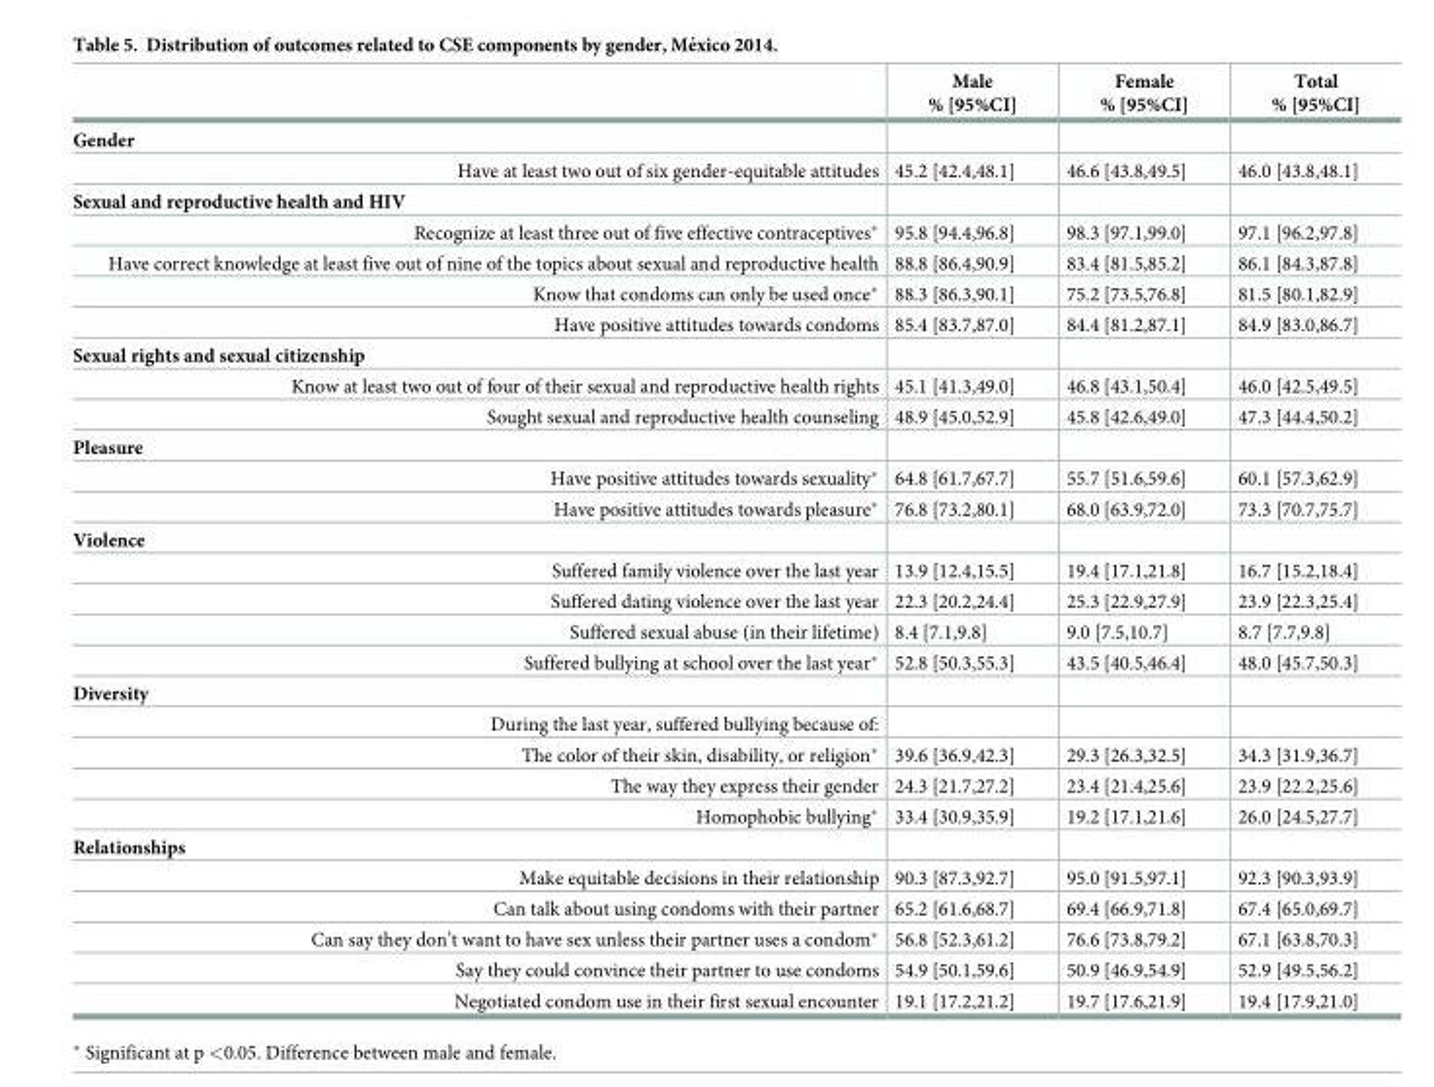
<table><thead><tr><td></td><td>Male % [95%CI]</td><td>Female % [95%CI]</td><td>Total % [95%CI]</td></tr></thead><tbody><tr><td colspan="4">Gender</td></tr><tr><td>Have at least two out of six gender-equitable attitudes</td><td>45.2 [42.4,48.1]</td><td>46.6 [43.8,49.5]</td><td>46.0 [43.8,48.1]</td></tr><tr><td colspan="4">Sexual and reproductive health and HIV</td></tr><tr><td>Recognize at least three out of five effective contraceptives*</td><td>95.8 [94.4,96.8]</td><td>98.3 [97.1,99.0]</td><td>97.1 [96.2,97.8]</td></tr><tr><td>Have correct knowledge at least five out of nine of the topics about sexual and reproductive health</td><td>88.8 [86.4,90.9]</td><td>83.4 [81.5,85.2]</td><td>86.1 [84.3,87.8]</td></tr><tr><td>Know that condoms can only be used once*</td><td>88.3 [86.3,90.1]</td><td>75.2 [73.5,76.8]</td><td>81.5 [80.1,82.9]</td></tr><tr><td>Have positive attitudes towards condoms</td><td>85.4 [83.7,87.0]</td><td>84.4 [81.2,87.1]</td><td>84.9 [83.0,86.7]</td></tr><tr><td colspan="4">Sexual rights and sexual citizenship</td></tr><tr><td>Know at least two out of four of their sexual and reproductive health rights</td><td>45.1 [41.3,49.0]</td><td>46.8 [43.1,50.4]</td><td>46.0 [42.5,49.5]</td></tr><tr><td>Sought sexual and reproductive health counseling</td><td>48.9 [45.0,52.9]</td><td>45.8 [42.6,49.0]</td><td>47.3 [44.4,50.2]</td></tr><tr><td colspan="4">Pleasure</td></tr><tr><td>Have positive attitudes towards sexuality*</td><td>64.8 [61.7,67.7]</td><td>55.7 [51.6,59.6]</td><td>60.1 [57.3,62.9]</td></tr><tr><td>Have positive attitudes towards pleasure*</td><td>76.8 [73.2,80.1]</td><td>68.0 [63.9,72.0]</td><td>73.3 [70.7,75.7]</td></tr><tr><td colspan="4">Violence</td></tr><tr><td>Suffered family violence over the last year</td><td>13.9 [12.4,15.5]</td><td>19.4 [17.1,21.8]</td><td>16.7 [15.2,18.4]</td></tr><tr><td>Suffered dating violence over the last year</td><td>22.3 [20.2,24.4]</td><td>25.3 [22.9,27.9]</td><td>23.9 [22.3,25.4]</td></tr><tr><td>Suffered sexual abuse (in their lifetime)</td><td>8.4 [7.1,9.8]</td><td>9.0 [7.5,10.7]</td><td>8.7 [7.7,9.8]</td></tr><tr><td>Suffered bullying at school over the last year*</td><td>52.8 [50.3,55.3]</td><td>43.5 [40.5,46.4]</td><td>48.0 [45.7,50.3]</td></tr><tr><td colspan="4">Diversity</td></tr><tr><td colspan="4">During the last year, suffered bullying because of:</td></tr><tr><td>The color of their skin, disability, or religion*</td><td>39.6 [36.9,42.3]</td><td>29.3 [26.3,32.5]</td><td>34.3 [31.9,36.7]</td></tr><tr><td>The way they express their gender</td><td>24.3 [21.7,27.2]</td><td>23.4 [21.4,25.6]</td><td>23.9 [22.2,25.6]</td></tr><tr><td>Homophobic bullying*</td><td>33.4 [30.9,35.9]</td><td>19.2 [17.1,21.6]</td><td>26.0 [24.5,27.7]</td></tr><tr><td colspan="4">Relationships</td></tr><tr><td>Make equitable decisions in their relationship</td><td>90.3 [87.3,92.7]</td><td>95.0 [91.5,97.1]</td><td>92.3 [90.3,93.9]</td></tr><tr><td>Can talk about using condoms with their partner</td><td>65.2 [61.6,68.7]</td><td>69.4 [66.9,71.8]</td><td>67.4 [65.0,69.7]</td></tr><tr><td>Can say they don’t want to have sex unless their partner uses a condom*</td><td>56.8 [52.3,61.2]</td><td>76.6 [73.8,79.2]</td><td>67.1 [63.8,70.3]</td></tr><tr><td>Say they could convince their partner to use condoms</td><td>54.9 [50.1,59.6]</td><td>50.9 [46.9,54.9]</td><td>52.9 [49.5,56.2]</td></tr><tr><td>Negotiated condom use in their first sexual encounter</td><td>19.1 [17.2,21.2]</td><td>19.7 [17.6,21.9]</td><td>19.4 [17.9,21.0]</td></tr></tbody></table>